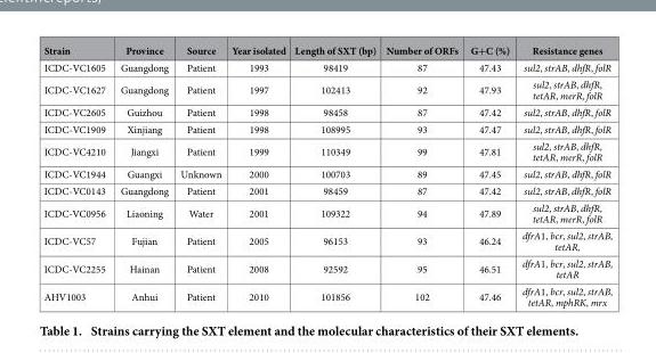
<table><thead><tr><td>Strain</td><td>Province</td><td>Source</td><td>Year isolated</td><td>Length of SXT (bp)</td><td>Number of ORFs</td><td>G+C (%)</td><td>Resistance genes</td></tr></thead><tbody><tr><td>ICDC-VC1605</td><td>Guangdong</td><td>Patient</td><td>1993</td><td>98419</td><td>87</td><td>47.43</td><td>sul2, strAB, dhfR, folR</td></tr><tr><td>ICDC-VC1627</td><td>Guangdong</td><td>Patient</td><td>1997</td><td>102413</td><td>92</td><td>47.93</td><td>sul2, strAB, dhfR, tetAR, merR, folR</td></tr><tr><td>ICDC-VC2605</td><td>Guizhou</td><td>Patient</td><td>1998</td><td>98458</td><td>87</td><td>47.42</td><td>sul2, strAB, dhfR, folR</td></tr><tr><td>ICDC-VC1909</td><td>Xinjiang</td><td>Patient</td><td>1998</td><td>108995</td><td>93</td><td>47.47</td><td>sul2, strAB, dhfR, folR</td></tr><tr><td>ICDC-VC4210</td><td>Jiangxi</td><td>Patient</td><td>1999</td><td>110349</td><td>99</td><td>47.81</td><td>sul2, strAB, dhfR, tetAR, merR, folR</td></tr><tr><td>ICDC-VC1944</td><td>Guangxi</td><td>Unknown</td><td>2000</td><td>100703</td><td>89</td><td>47.45</td><td>sul2, strAB, dhfR, folR</td></tr><tr><td>ICDC-VC0143</td><td>Guangdong</td><td>Patient</td><td>2001</td><td>98459</td><td>87</td><td>47.42</td><td>sul2, strAB, dhfR, folR</td></tr><tr><td>ICDC-VC0956</td><td>Liaoning</td><td>Water</td><td>2001</td><td>109322</td><td>94</td><td>47.89</td><td>sul2, strAB, dhfR, tetAR, merR, folR</td></tr><tr><td>ICDC-VC57</td><td>Fujian</td><td>Patient</td><td>2005</td><td>96153</td><td>93</td><td>46.24</td><td>dfrA1, bcr, sul2, strAB, tetAR,</td></tr><tr><td>ICDC-VC2255</td><td>Hainan</td><td>Patient</td><td>2008</td><td>92592</td><td>95</td><td>46.51</td><td>dfrA1, bcr, sul2, strAB, tetAR</td></tr><tr><td>AHV1003</td><td>Anhui</td><td>Patient</td><td>2010</td><td>101856</td><td>102</td><td>47.46</td><td>dfrA1, bcr, sul2, strAB, tetAR, mphRK, mrx</td></tr></tbody></table>